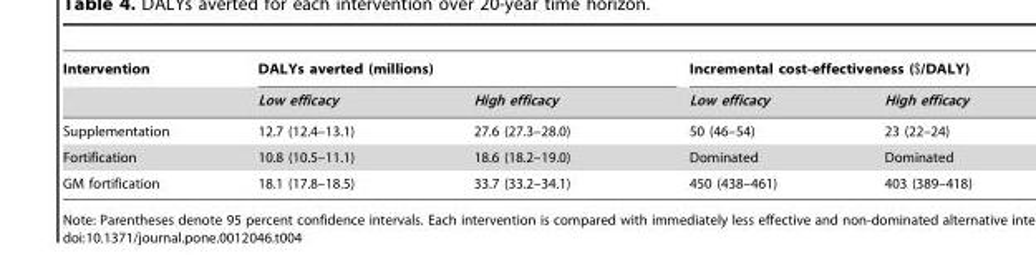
<table><thead><tr><td rowspan="2">Intervention</td><td colspan="2">DALYs averted (millions)</td><td colspan="2">Incremental cost-effectiveness ($/DALY)</td></tr><tr><td>Low efficacy</td><td>High efficacy</td><td>Low efficacy</td><td>High efficacy</td></tr></thead><tbody><tr><td>Supplementation</td><td>12.7 (12.4–13.1)</td><td>27.6 (27.3–28.0)</td><td>50 (46–54)</td><td>23 (22–24)</td></tr><tr><td>Fortification</td><td>10.8 (10.5–11.1)</td><td>18.6 (18.2–19.0)</td><td>Dominated</td><td>Dominated</td></tr><tr><td>GM fortification</td><td>18.1 (17.8–18.5)</td><td>33.7 (33.2–34.1)</td><td>450 (438–461)</td><td>403 (389–418)</td></tr></tbody></table>